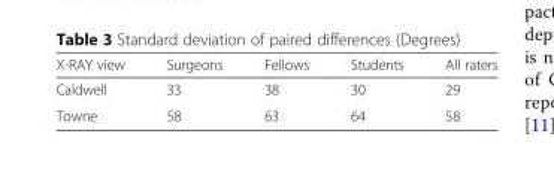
<table><thead><tr><td>X-RAY view</td><td>Surgeons</td><td>Fellows</td><td>Students</td><td>All raters</td></tr></thead><tbody><tr><td>Caldwell</td><td>33</td><td>38</td><td>30</td><td>29</td></tr><tr><td>Towne</td><td>58</td><td>63</td><td>64</td><td>58</td></tr></tbody></table>